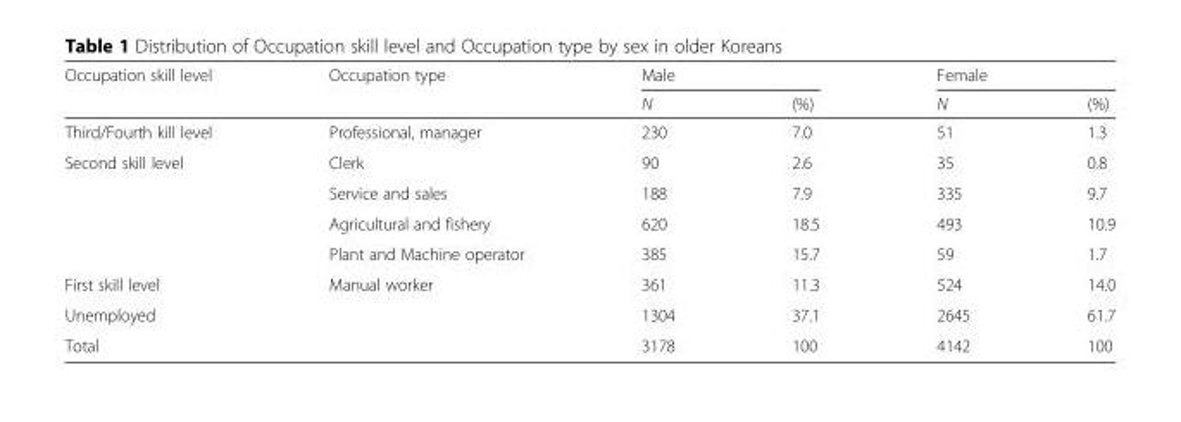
<table><thead><tr><td rowspan="2">Occupation skill level</td><td rowspan="2">Occupation type</td><td colspan="2">Male</td><td colspan="2">Female</td></tr><tr><td>N</td><td>(%)</td><td>N</td><td>(%)</td></tr></thead><tbody><tr><td>Third/Fourth kill level</td><td>Professional, manager</td><td>230</td><td>7.0</td><td>51</td><td>1.3</td></tr><tr><td rowspan="4">Second skill level</td><td>Clerk</td><td>90</td><td>2.6</td><td>35</td><td>0.8</td></tr><tr><td>Service and sales</td><td>188</td><td>7.9</td><td>335</td><td>9.7</td></tr><tr><td>Agricultural and fishery</td><td>620</td><td>18.5</td><td>493</td><td>10.9</td></tr><tr><td>Plant and Machine operator</td><td>385</td><td>15.7</td><td>59</td><td>1.7</td></tr><tr><td>First skill level</td><td>Manual worker</td><td>361</td><td>11.3</td><td>524</td><td>14.0</td></tr><tr><td>Unemployed</td><td></td><td>1304</td><td>37.1</td><td>2645</td><td>61.7</td></tr><tr><td>Total</td><td></td><td>3178</td><td>100</td><td>4142</td><td>100</td></tr></tbody></table>